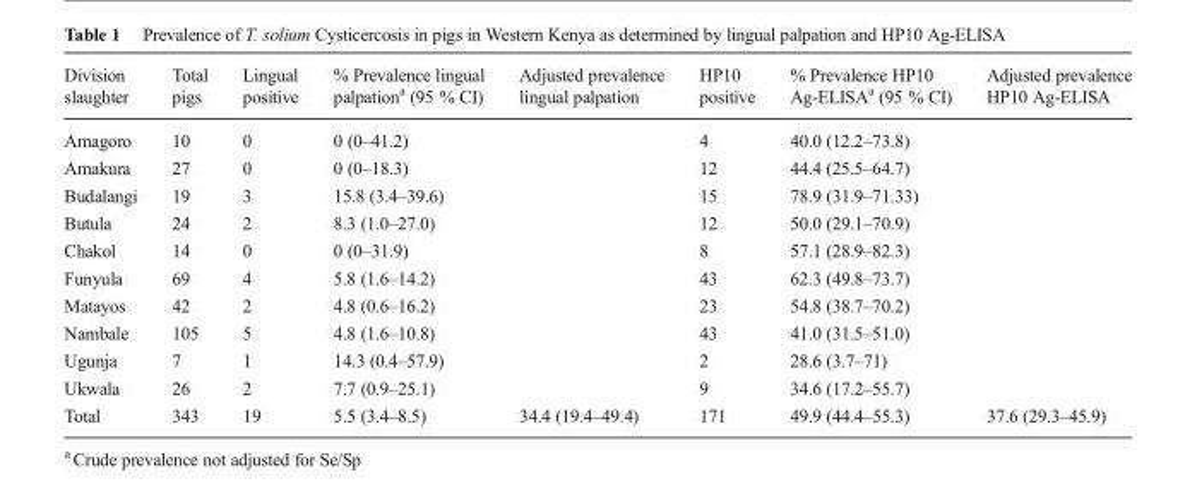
<table><thead><tr><td>Division slaughter</td><td>Total pigs</td><td>Lingual positive</td><td>% Prevalence lingual palpation<sup>a</sup> (95 % CI)</td><td>Adjusted prevalence lingual palpation</td><td>HP10 positive</td><td>% Prevalence HP10 Ag-ELISA<sup>a</sup> (95 % CI)</td><td>Adjusted prevalence HP10 Ag-ELISA</td></tr></thead><tbody><tr><td>Amagoro</td><td>10</td><td>0</td><td>0 (0–41.2)</td><td></td><td>4</td><td>40.0 (12.2–73.8)</td><td></td></tr><tr><td>Amakura</td><td>27</td><td>0</td><td>0 (0–18.3)</td><td></td><td>12</td><td>44.4 (25.5–64.7)</td><td></td></tr><tr><td>Budalangi</td><td>19</td><td>3</td><td>15.8 (3.4–39.6)</td><td></td><td>15</td><td>78.9 (31.9–71.33)</td><td></td></tr><tr><td>Butula</td><td>24</td><td>2</td><td>8.3 (1.0–27.0)</td><td></td><td>12</td><td>50.0 (29.1–70.9)</td><td></td></tr><tr><td>Chakol</td><td>14</td><td>0</td><td>0 (0–31.9)</td><td></td><td>8</td><td>57.1 (28.9–82.3)</td><td></td></tr><tr><td>Funyula</td><td>69</td><td>4</td><td>5.8 (1.6–14.2)</td><td></td><td>43</td><td>62.3 (49.8–73.7)</td><td></td></tr><tr><td>Matayos</td><td>42</td><td>2</td><td>4.8 (0.6–16.2)</td><td></td><td>23</td><td>54.8 (38.7–70.2)</td><td></td></tr><tr><td>Nambale</td><td>105</td><td>5</td><td>4.8 (1.6–10.8)</td><td></td><td>43</td><td>41.0 (31.5–51.0)</td><td></td></tr><tr><td>Ugunja</td><td>7</td><td>1</td><td>14.3 (0.4–57.9)</td><td></td><td>2</td><td>28.6 (3.7–71)</td><td></td></tr><tr><td>Ukwala</td><td>26</td><td>2</td><td>7.7 (0.9–25.1)</td><td></td><td>9</td><td>34.6 (17.2–55.7)</td><td></td></tr><tr><td>Total</td><td>343</td><td>19</td><td>5.5 (3.4–8.5)</td><td>34.4 (19.4–49.4)</td><td>171</td><td>49.9 (44.4–55.3)</td><td>37.6 (29.3–45.9)</td></tr></tbody></table>